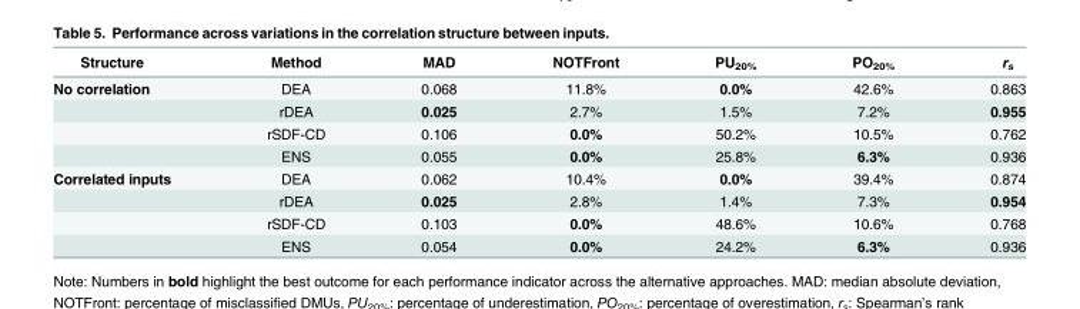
<table><thead><tr><td>Structure</td><td>Method</td><td>MAD</td><td>NOTFront</td><td>PU<sub>20%</sub></td><td>PO<sub>20%</sub></td><td>r<sub>s</sub></td></tr></thead><tbody><tr><td rowspan="4">No correlation</td><td>DEA</td><td>0.068</td><td>11.8%</td><td>0.0%</td><td>42.6%</td><td>0.863</td></tr><tr><td>rDEA</td><td>0.025</td><td>2.7%</td><td>1.5%</td><td>7.2%</td><td>0.955</td></tr><tr><td>rSDF-CD</td><td>0.106</td><td>0.0%</td><td>50.2%</td><td>10.5%</td><td>0.762</td></tr><tr><td>ENS</td><td>0.055</td><td>0.0%</td><td>25.8%</td><td>6.3%</td><td>0.936</td></tr><tr><td rowspan="4">Correlated inputs</td><td>DEA</td><td>0.062</td><td>10.4%</td><td>0.0%</td><td>39.4%</td><td>0.874</td></tr><tr><td>rDEA</td><td>0.025</td><td>2.8%</td><td>1.4%</td><td>7.3%</td><td>0.954</td></tr><tr><td>rSDF-CD</td><td>0.103</td><td>0.0%</td><td>48.6%</td><td>10.6%</td><td>0.768</td></tr><tr><td>ENS</td><td>0.054</td><td>0.0%</td><td>24.2%</td><td>6.3%</td><td>0.936</td></tr></tbody></table>